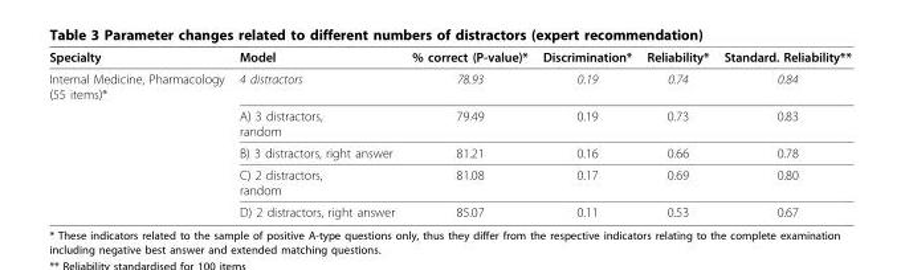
<table><thead><tr><td>Specialty</td><td>Model</td><td>% correct (P-value)*</td><td>Discrimination*</td><td>Reliability*</td><td>Standard. Reliability**</td></tr></thead><tbody><tr><td rowspan="5">Internal Medicine, Pharmacology (55 items)*</td><td>4 distractors</td><td>78.93</td><td>0.19</td><td>0.74</td><td>0.84</td></tr><tr><td>A) 3 distractors, random</td><td>79.49</td><td>0.19</td><td>0.73</td><td>0.83</td></tr><tr><td>B) 3 distractors, right answer</td><td>81.21</td><td>0.16</td><td>0.66</td><td>0.78</td></tr><tr><td>C) 2 distractors, random</td><td>81.08</td><td>0.17</td><td>0.69</td><td>0.80</td></tr><tr><td>D) 2 distractors, right answer</td><td>85.07</td><td>0.11</td><td>0.53</td><td>0.67</td></tr></tbody></table>